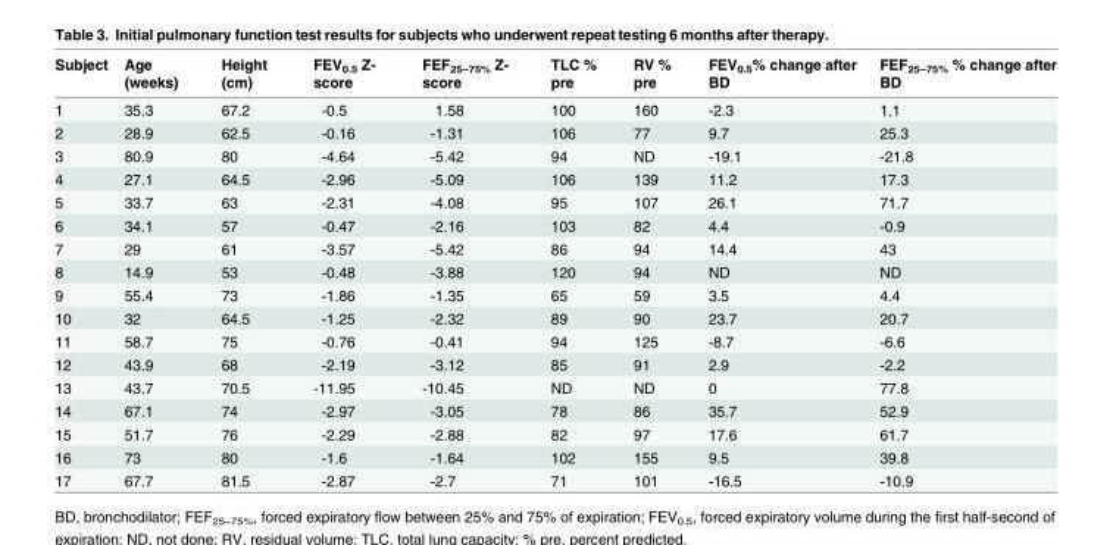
<table><thead><tr><td>Subject</td><td>Age (weeks)</td><td>Height (cm)</td><td>FEV<sub>0.5</sub> Z- score</td><td>FEF<sub>25–75%</sub> Z- score</td><td>TLC % pre</td><td>RV % pre</td><td>FEV<sub>0.5</sub>% change after BD</td><td>FEF<sub>25–75%</sub> % change after BD</td></tr></thead><tbody><tr><td>1</td><td>35.3</td><td>67.2</td><td>-0.5</td><td>1.58</td><td>100</td><td>160</td><td>-2.3</td><td>1.1</td></tr><tr><td>2</td><td>28.9</td><td>62.5</td><td>-0.16</td><td>-1.31</td><td>106</td><td>77</td><td>9.7</td><td>25.3</td></tr><tr><td>3</td><td>80.9</td><td>80</td><td>-4.64</td><td>-5.42</td><td>94</td><td>ND</td><td>-19.1</td><td>-21.8</td></tr><tr><td>4</td><td>27.1</td><td>64.5</td><td>-2.96</td><td>-5.09</td><td>106</td><td>139</td><td>11.2</td><td>17.3</td></tr><tr><td>5</td><td>33.7</td><td>63</td><td>-2.31</td><td>-4.08</td><td>95</td><td>107</td><td>26.1</td><td>71.7</td></tr><tr><td>6</td><td>34.1</td><td>57</td><td>-0.47</td><td>-2.16</td><td>103</td><td>82</td><td>4.4</td><td>-0.9</td></tr><tr><td>7</td><td>29</td><td>61</td><td>-3.57</td><td>-5.42</td><td>86</td><td>94</td><td>14.4</td><td>43</td></tr><tr><td>8</td><td>14.9</td><td>53</td><td>-0.48</td><td>-3.88</td><td>120</td><td>94</td><td>ND</td><td>ND</td></tr><tr><td>9</td><td>55.4</td><td>73</td><td>-1.86</td><td>-1.35</td><td>65</td><td>59</td><td>3.5</td><td>4.4</td></tr><tr><td>10</td><td>32</td><td>64.5</td><td>-1.25</td><td>-2.32</td><td>89</td><td>90</td><td>23.7</td><td>20.7</td></tr><tr><td>11</td><td>58.7</td><td>75</td><td>-0.76</td><td>-0.41</td><td>94</td><td>125</td><td>-8.7</td><td>-6.6</td></tr><tr><td>12</td><td>43.9</td><td>68</td><td>-2.19</td><td>-3.12</td><td>85</td><td>91</td><td>2.9</td><td>-2.2</td></tr><tr><td>13</td><td>43.7</td><td>70.5</td><td>-11.95</td><td>-10.45</td><td>ND</td><td>ND</td><td>0</td><td>77.8</td></tr><tr><td>14</td><td>67.1</td><td>74</td><td>-2.97</td><td>-3.05</td><td>78</td><td>86</td><td>35.7</td><td>52.9</td></tr><tr><td>15</td><td>51.7</td><td>76</td><td>-2.29</td><td>-2.88</td><td>82</td><td>97</td><td>17.6</td><td>61.7</td></tr><tr><td>16</td><td>73</td><td>80</td><td>-1.6</td><td>-1.64</td><td>102</td><td>155</td><td>9.5</td><td>39.8</td></tr><tr><td>17</td><td>67.7</td><td>81.5</td><td>-2.87</td><td>-2.7</td><td>71</td><td>101</td><td>-16.5</td><td>-10.9</td></tr></tbody></table>